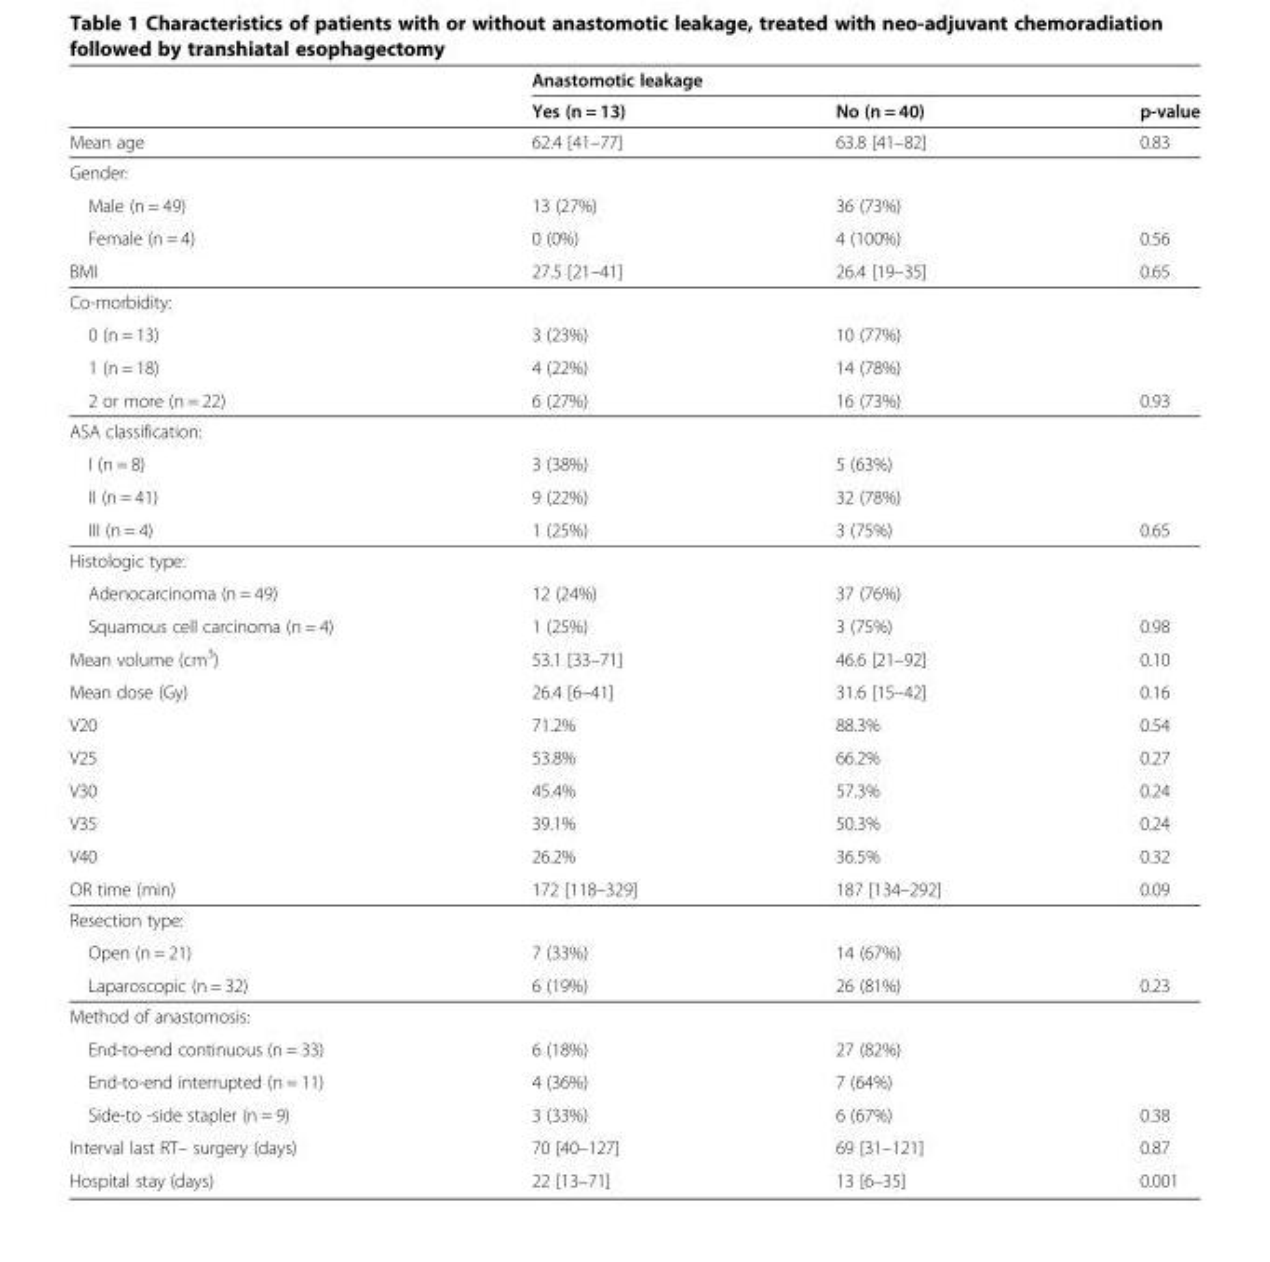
<table><thead><tr><td rowspan="2"></td><td colspan="3">Anastomotic leakage</td></tr><tr><td>Yes (n = 13)</td><td>No (n = 40)</td><td>p-value</td></tr></thead><tbody><tr><td>Mean age</td><td>62.4 [41–77]</td><td>63.8 [41–82]</td><td>0.83</td></tr><tr><td colspan="4">Gender:</td></tr><tr><td>Male (n = 49)</td><td>13 (27%)</td><td>36 (73%)</td><td></td></tr><tr><td>Female (n = 4)</td><td>0 (0%)</td><td>4 (100%)</td><td>0.56</td></tr><tr><td>BMI</td><td>27.5 [21–41]</td><td>26.4 [19–35]</td><td>0.65</td></tr><tr><td colspan="4">Co-morbidity:</td></tr><tr><td>0 (n = 13)</td><td>3 (23%)</td><td>10 (77%)</td><td></td></tr><tr><td>1 (n = 18)</td><td>4 (22%)</td><td>14 (78%)</td><td></td></tr><tr><td>2 or more (n = 22)</td><td>6 (27%)</td><td>16 (73%)</td><td>0.93</td></tr><tr><td colspan="4">ASA classification:</td></tr><tr><td>I (n = 8)</td><td>3 (38%)</td><td>5 (63%)</td><td></td></tr><tr><td>II (n = 41)</td><td>9 (22%)</td><td>32 (78%)</td><td></td></tr><tr><td>III (n = 4)</td><td>1 (25%)</td><td>3 (75%)</td><td>0.65</td></tr><tr><td colspan="4">Histologic type:</td></tr><tr><td>Adenocarcinoma (n = 49)</td><td>12 (24%)</td><td>37 (76%)</td><td></td></tr><tr><td>Squamous cell carcinoma (n = 4)</td><td>1 (25%)</td><td>3 (75%)</td><td>0.98</td></tr><tr><td>Mean volume (cm<sup>3</sup>)</td><td>53.1 [33–71]</td><td>46.6 [21–92]</td><td>0.10</td></tr><tr><td>Mean dose (Gy)</td><td>26.4 [6–41]</td><td>31.6 [15–42]</td><td>0.16</td></tr><tr><td>V20</td><td>71.2%</td><td>88.3%</td><td>0.54</td></tr><tr><td>V25</td><td>53.8%</td><td>66.2%</td><td>0.27</td></tr><tr><td>V30</td><td>45.4%</td><td>57.3%</td><td>0.24</td></tr><tr><td>V35</td><td>39.1%</td><td>50.3%</td><td>0.24</td></tr><tr><td>V40</td><td>26.2%</td><td>36.5%</td><td>0.32</td></tr><tr><td>OR time (min)</td><td>172 [118–329]</td><td>187 [134–292]</td><td>0.09</td></tr><tr><td colspan="4">Resection type:</td></tr><tr><td>Open (n = 21)</td><td>7 (33%)</td><td>14 (67%)</td><td></td></tr><tr><td>Laparoscopic (n = 32)</td><td>6 (19%)</td><td>26 (81%)</td><td>0.23</td></tr><tr><td colspan="4">Method of anastomosis:</td></tr><tr><td>End-to-end continuous (n = 33)</td><td>6 (18%)</td><td>27 (82%)</td><td></td></tr><tr><td>End-to-end interrupted (n = 11)</td><td>4 (36%)</td><td>7 (64%)</td><td></td></tr><tr><td>Side-to -side stapler (n = 9)</td><td>3 (33%)</td><td>6 (67%)</td><td>0.38</td></tr><tr><td>Interval last RT– surgery (days)</td><td>70 [40–127]</td><td>69 [31–121]</td><td>0.87</td></tr><tr><td>Hospital stay (days)</td><td>22 [13–71]</td><td>13 [6–35]</td><td>0.001</td></tr></tbody></table>